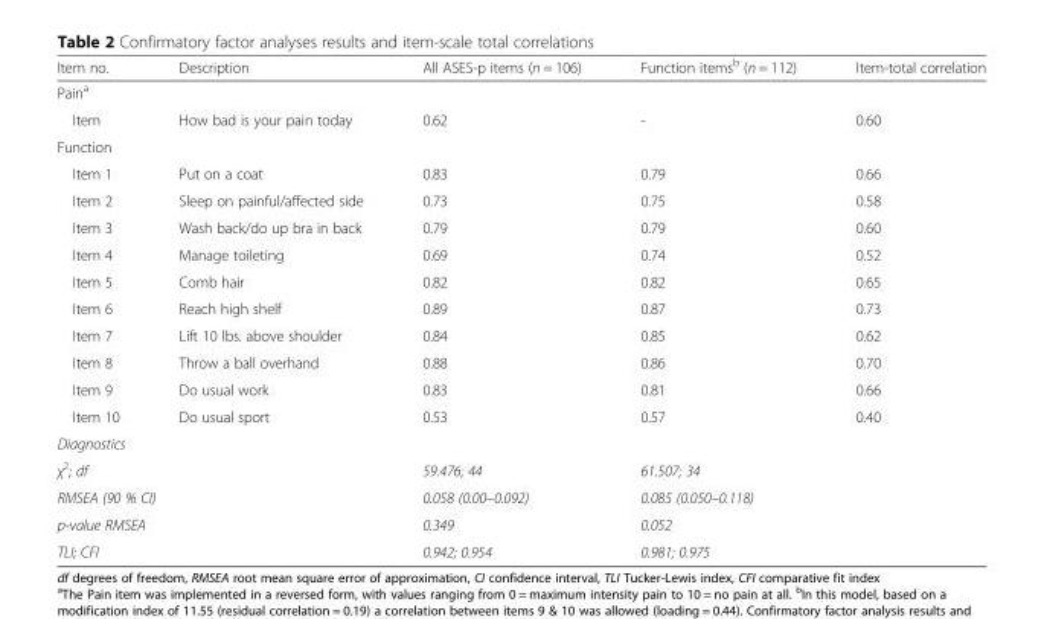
<table><thead><tr><td>Item no.</td><td>Description</td><td>All ASES-p items (n = 106)</td><td>Function items<sup>b</sup> (n = 112)</td><td>Item-total correlation</td></tr></thead><tbody><tr><td colspan="5">Pain<sup>a</sup></td></tr><tr><td>Item</td><td>How bad is your pain today</td><td>0.62</td><td>-</td><td>0.60</td></tr><tr><td colspan="5">Function</td></tr><tr><td>Item 1</td><td>Put on a coat</td><td>0.83</td><td>0.79</td><td>0.66</td></tr><tr><td>Item 2</td><td>Sleep on painful/affected side</td><td>0.73</td><td>0.75</td><td>0.58</td></tr><tr><td>Item 3</td><td>Wash back/do up bra in back</td><td>0.79</td><td>0.79</td><td>0.60</td></tr><tr><td>Item 4</td><td>Manage toileting</td><td>0.69</td><td>0.74</td><td>0.52</td></tr><tr><td>Item 5</td><td>Comb hair</td><td>0.82</td><td>0.82</td><td>0.65</td></tr><tr><td>Item 6</td><td>Reach high shelf</td><td>0.89</td><td>0.87</td><td>0.73</td></tr><tr><td>Item 7</td><td>Lift 10 lbs. above shoulder</td><td>0.84</td><td>0.85</td><td>0.62</td></tr><tr><td>Item 8</td><td>Throw a ball overhand</td><td>0.88</td><td>0.86</td><td>0.70</td></tr><tr><td>Item 9</td><td>Do usual work</td><td>0.83</td><td>0.81</td><td>0.66</td></tr><tr><td>Item 10</td><td>Do usual sport</td><td>0.53</td><td>0.57</td><td>0.40</td></tr><tr><td colspan="5">Diagnostics</td></tr><tr><td colspan="2">χ<sup>2</sup>; df</td><td>59.476; 44</td><td>61.507; 34</td><td></td></tr><tr><td colspan="2">RMSEA (90 % CI)</td><td>0.058 (0.00–0.092)</td><td>0.085 (0.050–0.118)</td><td></td></tr><tr><td colspan="2">p-value RMSEA</td><td>0.349</td><td>0.052</td><td></td></tr><tr><td colspan="2">TLI; CFI</td><td>0.942; 0.954</td><td>0.981; 0.975</td><td></td></tr></tbody></table>